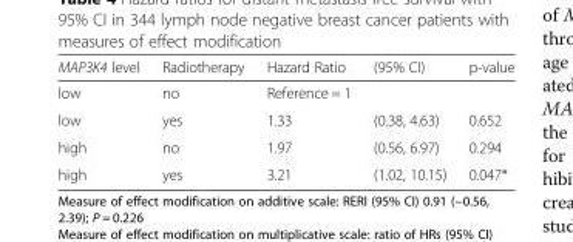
<table><thead><tr><td>MAP3K4 level</td><td>Radiotherapy</td><td>Hazard Ratio</td><td>(95% CI)</td><td>p-value</td></tr></thead><tbody><tr><td>low</td><td>no</td><td>Reference = 1</td><td></td><td></td></tr><tr><td>low</td><td>yes</td><td>1.33</td><td>(0.38, 4.63)</td><td>0.652</td></tr><tr><td>high</td><td>no</td><td>1.97</td><td>(0.56, 6.97)</td><td>0.294</td></tr><tr><td>high</td><td>yes</td><td>3.21</td><td>(1.02, 10.15)</td><td>0.047*</td></tr></tbody></table>